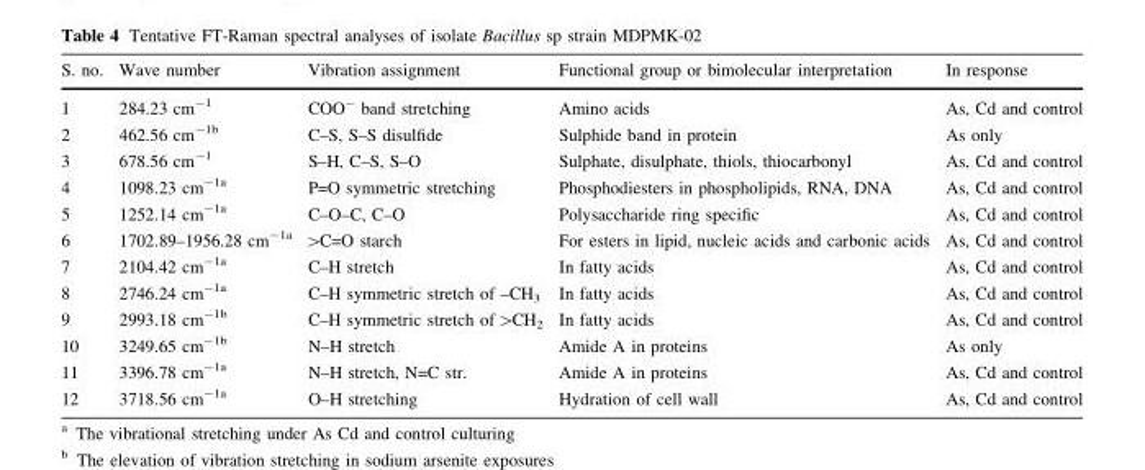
<table><thead><tr><td>S. no.</td><td>Wave number</td><td>Vibration assignment</td><td>Functional group or bimolecular interpretation</td><td>In response</td></tr></thead><tbody><tr><td>1</td><td>284.23 cm<sup>-1</sup></td><td>COO<sup>-</sup> band stretching</td><td>Amino acids</td><td>As, Cd and control</td></tr><tr><td>2</td><td>462.56 cm<sup>-1b</sup></td><td>C–S, S–S disulfide</td><td>Sulphide band in protein</td><td>As only</td></tr><tr><td>3</td><td>678.56 cm<sup>-1</sup></td><td>S–H, C–S, S–O</td><td>Sulphate, disulphate, thiols, thiocarbonyl</td><td>As, Cd and control</td></tr><tr><td>4</td><td>1098.23 cm<sup>-1a</sup></td><td>P=O symmetric stretching</td><td>Phosphodiesters in phospholipids, RNA, DNA</td><td>As, Cd and control</td></tr><tr><td>5</td><td>1252.14 cm<sup>-1a</sup></td><td>C–O–C, C–O</td><td>Polysaccharide ring specific</td><td>As, Cd and control</td></tr><tr><td>6</td><td>1702.89–1956.28 cm<sup>-1a</sup></td><td>&gt;C=O starch</td><td>For esters in lipid, nucleic acids and carbonic acids</td><td>As, Cd and control</td></tr><tr><td>7</td><td>2104.42 cm<sup>-1a</sup></td><td>C–H stretch</td><td>In fatty acids</td><td>As, Cd and control</td></tr><tr><td>8</td><td>2746.24 cm<sup>-1a</sup></td><td>C–H symmetric stretch of –CH<sub>3</sub></td><td>In fatty acids</td><td>As, Cd and control</td></tr><tr><td>9</td><td>2993.18 cm<sup>-1b</sup></td><td>C–H symmetric stretch of &gt;CH<sub>2</sub></td><td>In fatty acids</td><td>As, Cd and control</td></tr><tr><td>10</td><td>3249.65 cm<sup>-1b</sup></td><td>N–H stretch</td><td>Amide A in proteins</td><td>As only</td></tr><tr><td>11</td><td>3396.78 cm<sup>-1a</sup></td><td>N–H stretch, N=C str.</td><td>Amide A in proteins</td><td>As, Cd and control</td></tr><tr><td>12</td><td>3718.56 cm<sup>-1a</sup></td><td>O–H stretching</td><td>Hydration of cell wall</td><td>As, Cd and control</td></tr></tbody></table>